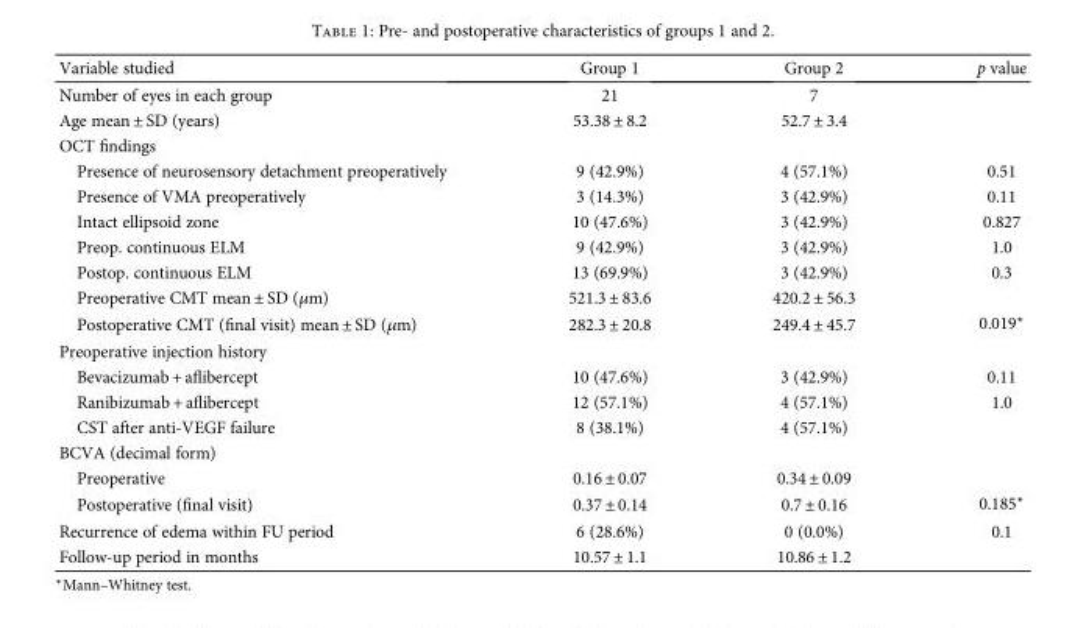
<table><thead><tr><td>Variable studied</td><td>Group 1</td><td>Group 2</td><td>p value</td></tr></thead><tbody><tr><td>Number of eyes in each group</td><td>21</td><td>7</td><td></td></tr><tr><td>Age mean ± SD (years)</td><td>53.38 ± 8.2</td><td>52.7 ± 3.4</td><td></td></tr><tr><td colspan="4">OCT findings</td></tr><tr><td>Presence of neurosensory detachment preoperatively</td><td>9 (42.9%)</td><td>4 (57.1%)</td><td>0.51</td></tr><tr><td>Presence of VMA preoperatively</td><td>3 (14.3%)</td><td>3 (42.9%)</td><td>0.11</td></tr><tr><td>Intact ellipsoid zone</td><td>10 (47.6%)</td><td>3 (42.9%)</td><td>0.827</td></tr><tr><td>Preop. continuous ELM</td><td>9 (42.9%)</td><td>3 (42.9%)</td><td>1.0</td></tr><tr><td>Postop. continuous ELM</td><td>13 (69.9%)</td><td>3 (42.9%)</td><td>0.3</td></tr><tr><td>Preoperative CMT mean ± SD (μm)</td><td>521.3 ± 83.6</td><td>420.2 ± 56.3</td><td></td></tr><tr><td>Postoperative CMT (final visit) mean ± SD (μm)</td><td>282.3 ± 20.8</td><td>249.4 ± 45.7</td><td>0.019∗</td></tr><tr><td colspan="4">Preoperative injection history</td></tr><tr><td>Bevacizumab + aflibercept</td><td>10 (47.6%)</td><td>3 (42.9%)</td><td>0.11</td></tr><tr><td>Ranibizumab + aflibercept</td><td>12 (57.1%)</td><td>4 (57.1%)</td><td>1.0</td></tr><tr><td>CST after anti-VEGF failure</td><td>8 (38.1%)</td><td>4 (57.1%)</td><td></td></tr><tr><td colspan="4">BCVA (decimal form)</td></tr><tr><td>Preoperative</td><td>0.16 ± 0.07</td><td>0.34 ± 0.09</td><td></td></tr><tr><td>Postoperative (final visit)</td><td>0.37 ± 0.14</td><td>0.7 ± 0.16</td><td>0.185∗</td></tr><tr><td>Recurrence of edema within FU period</td><td>6 (28.6%)</td><td>0 (0.0%)</td><td>0.1</td></tr><tr><td>Follow-up period in months</td><td>10.57 ± 1.1</td><td>10.86 ± 1.2</td><td></td></tr></tbody></table>